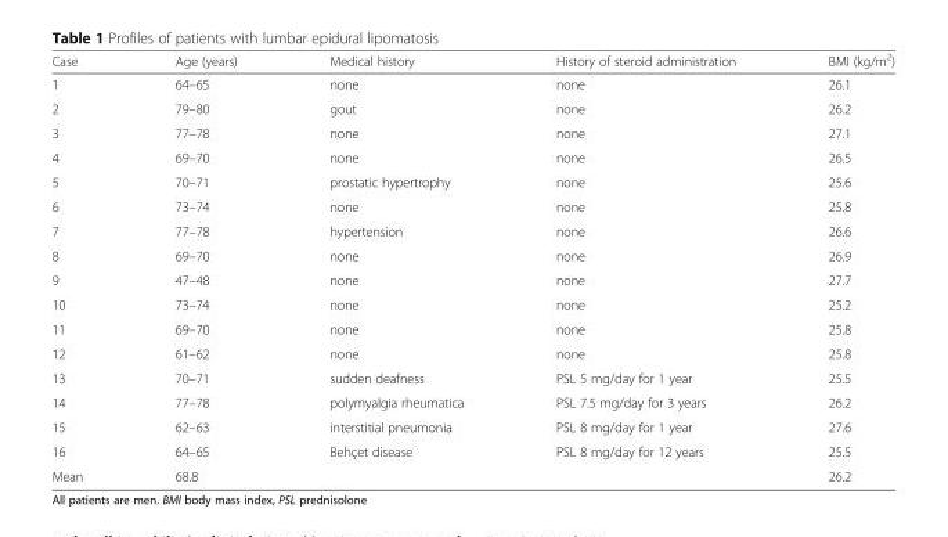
<table><thead><tr><td>Case</td><td>Age (years)</td><td>Medical history</td><td>History of steroid administration</td><td>BMI (kg/m<sup>2</sup>)</td></tr></thead><tbody><tr><td>1</td><td>64–65</td><td>none</td><td>none</td><td>26.1</td></tr><tr><td>2</td><td>79–80</td><td>gout</td><td>none</td><td>26.2</td></tr><tr><td>3</td><td>77–78</td><td>none</td><td>none</td><td>27.1</td></tr><tr><td>4</td><td>69–70</td><td>none</td><td>none</td><td>26.5</td></tr><tr><td>5</td><td>70–71</td><td>prostatic hypertrophy</td><td>none</td><td>25.6</td></tr><tr><td>6</td><td>73–74</td><td>none</td><td>none</td><td>25.8</td></tr><tr><td>7</td><td>77–78</td><td>hypertension</td><td>none</td><td>26.6</td></tr><tr><td>8</td><td>69–70</td><td>none</td><td>none</td><td>26.9</td></tr><tr><td>9</td><td>47–48</td><td>none</td><td>none</td><td>27.7</td></tr><tr><td>10</td><td>73–74</td><td>none</td><td>none</td><td>25.2</td></tr><tr><td>11</td><td>69–70</td><td>none</td><td>none</td><td>25.8</td></tr><tr><td>12</td><td>61–62</td><td>none</td><td>none</td><td>25.8</td></tr><tr><td>13</td><td>70–71</td><td>sudden deafness</td><td>PSL 5 mg/day for 1 year</td><td>25.5</td></tr><tr><td>14</td><td>77–78</td><td>polymyalgia rheumatica</td><td>PSL 7.5 mg/day for 3 years</td><td>26.2</td></tr><tr><td>15</td><td>62–63</td><td>interstitial pneumonia</td><td>PSL 8 mg/day for 1 year</td><td>27.6</td></tr><tr><td>16</td><td>64–65</td><td>Behçet disease</td><td>PSL 8 mg/day for 12 years</td><td>25.5</td></tr><tr><td>Mean</td><td>68.8</td><td></td><td></td><td>26.2</td></tr></tbody></table>